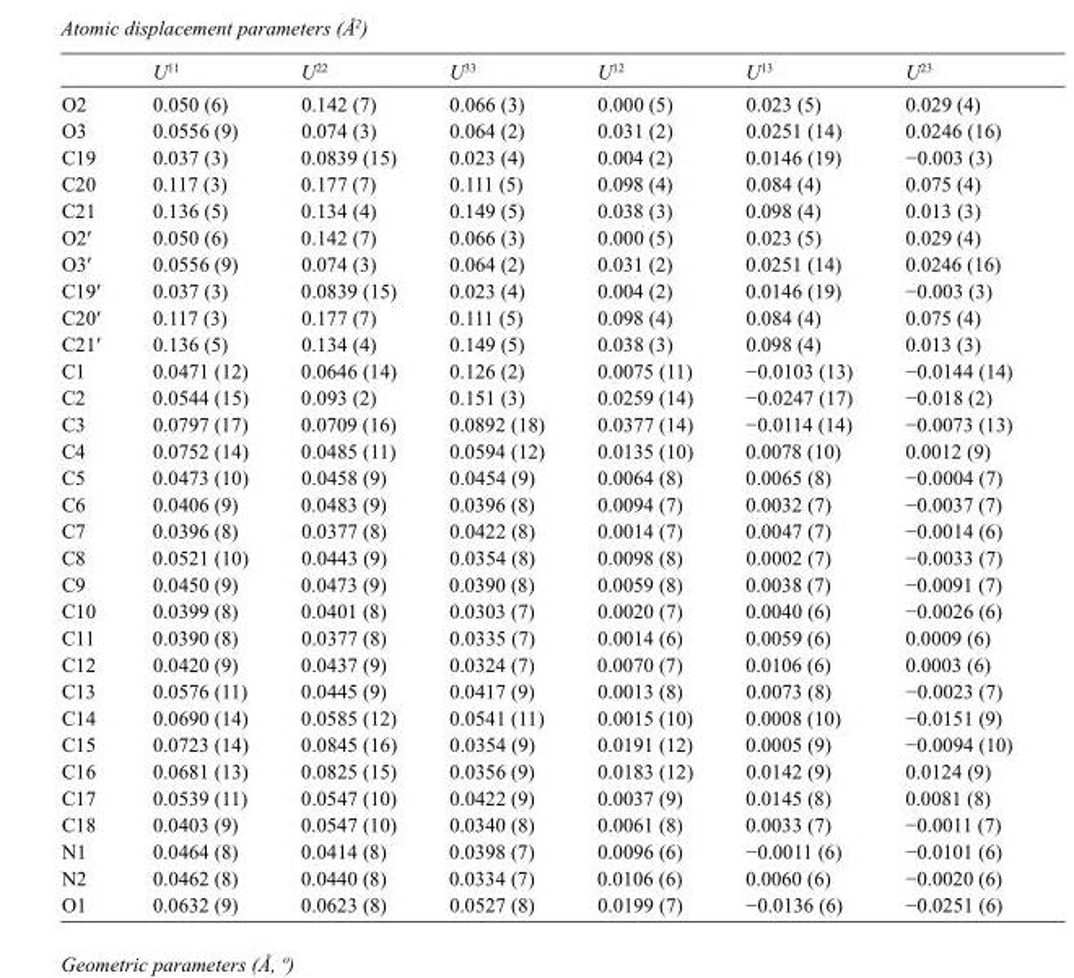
<table><thead><tr><td></td><td>U<sup>11</sup></td><td>U<sup>22</sup></td><td>U<sup>33</sup></td><td>U<sup>12</sup></td><td>U<sup>13</sup></td><td>U<sup>23</sup></td></tr></thead><tbody><tr><td>O2</td><td>0.050 (6)</td><td>0.142 (7)</td><td>0.066 (3)</td><td>0.000 (5)</td><td>0.023 (5)</td><td>0.029 (4)</td></tr><tr><td>O3</td><td>0.0556 (9)</td><td>0.074 (3)</td><td>0.064 (2)</td><td>0.031 (2)</td><td>0.0251 (14)</td><td>0.0246 (16)</td></tr><tr><td>C19</td><td>0.037 (3)</td><td>0.0839 (15)</td><td>0.023 (4)</td><td>0.004 (2)</td><td>0.0146 (19)</td><td>−0.003 (3)</td></tr><tr><td>C20</td><td>0.117 (3)</td><td>0.177 (7)</td><td>0.111 (5)</td><td>0.098 (4)</td><td>0.084 (4)</td><td>0.075 (4)</td></tr><tr><td>C21</td><td>0.136 (5)</td><td>0.134 (4)</td><td>0.149 (5)</td><td>0.038 (3)</td><td>0.098 (4)</td><td>0.013 (3)</td></tr><tr><td>O2′</td><td>0.050 (6)</td><td>0.142 (7)</td><td>0.066 (3)</td><td>0.000 (5)</td><td>0.023 (5)</td><td>0.029 (4)</td></tr><tr><td>O3′</td><td>0.0556 (9)</td><td>0.074 (3)</td><td>0.064 (2)</td><td>0.031 (2)</td><td>0.0251 (14)</td><td>0.0246 (16)</td></tr><tr><td>C19′</td><td>0.037 (3)</td><td>0.0839 (15)</td><td>0.023 (4)</td><td>0.004 (2)</td><td>0.0146 (19)</td><td>−0.003 (3)</td></tr><tr><td>C20′</td><td>0.117 (3)</td><td>0.177 (7)</td><td>0.111 (5)</td><td>0.098 (4)</td><td>0.084 (4)</td><td>0.075 (4)</td></tr><tr><td>C21′</td><td>0.136 (5)</td><td>0.134 (4)</td><td>0.149 (5)</td><td>0.038 (3)</td><td>0.098 (4)</td><td>0.013 (3)</td></tr><tr><td>C1</td><td>0.0471 (12)</td><td>0.0646 (14)</td><td>0.126 (2)</td><td>0.0075 (11)</td><td>−0.0103 (13)</td><td>−0.0144 (14)</td></tr><tr><td>C2</td><td>0.0544 (15)</td><td>0.093 (2)</td><td>0.151 (3)</td><td>0.0259 (14)</td><td>−0.0247 (17)</td><td>−0.018 (2)</td></tr><tr><td>C3</td><td>0.0797 (17)</td><td>0.0709 (16)</td><td>0.0892 (18)</td><td>0.0377 (14)</td><td>−0.0114 (14)</td><td>−0.0073 (13)</td></tr><tr><td>C4</td><td>0.0752 (14)</td><td>0.0485 (11)</td><td>0.0594 (12)</td><td>0.0135 (10)</td><td>0.0078 (10)</td><td>0.0012 (9)</td></tr><tr><td>C5</td><td>0.0473 (10)</td><td>0.0458 (9)</td><td>0.0454 (9)</td><td>0.0064 (8)</td><td>0.0065 (8)</td><td>−0.0004 (7)</td></tr><tr><td>C6</td><td>0.0406 (9)</td><td>0.0483 (9)</td><td>0.0396 (8)</td><td>0.0094 (7)</td><td>0.0032 (7)</td><td>−0.0037 (7)</td></tr><tr><td>C7</td><td>0.0396 (8)</td><td>0.0377 (8)</td><td>0.0422 (8)</td><td>0.0014 (7)</td><td>0.0047 (7)</td><td>−0.0014 (6)</td></tr><tr><td>C8</td><td>0.0521 (10)</td><td>0.0443 (9)</td><td>0.0354 (8)</td><td>0.0098 (8)</td><td>0.0002 (7)</td><td>−0.0033 (7)</td></tr><tr><td>C9</td><td>0.0450 (9)</td><td>0.0473 (9)</td><td>0.0390 (8)</td><td>0.0059 (8)</td><td>0.0038 (7)</td><td>−0.0091 (7)</td></tr><tr><td>C10</td><td>0.0399 (8)</td><td>0.0401 (8)</td><td>0.0303 (7)</td><td>0.0020 (7)</td><td>0.0040 (6)</td><td>−0.0026 (6)</td></tr><tr><td>C11</td><td>0.0390 (8)</td><td>0.0377 (8)</td><td>0.0335 (7)</td><td>0.0014 (6)</td><td>0.0059 (6)</td><td>0.0009 (6)</td></tr><tr><td>C12</td><td>0.0420 (9)</td><td>0.0437 (9)</td><td>0.0324 (7)</td><td>0.0070 (7)</td><td>0.0106 (6)</td><td>0.0003 (6)</td></tr><tr><td>C13</td><td>0.0576 (11)</td><td>0.0445 (9)</td><td>0.0417 (9)</td><td>0.0013 (8)</td><td>0.0073 (8)</td><td>−0.0023 (7)</td></tr><tr><td>C14</td><td>0.0690 (14)</td><td>0.0585 (12)</td><td>0.0541 (11)</td><td>0.0015 (10)</td><td>0.0008 (10)</td><td>−0.0151 (9)</td></tr><tr><td>C15</td><td>0.0723 (14)</td><td>0.0845 (16)</td><td>0.0354 (9)</td><td>0.0191 (12)</td><td>0.0005 (9)</td><td>−0.0094 (10)</td></tr><tr><td>C16</td><td>0.0681 (13)</td><td>0.0825 (15)</td><td>0.0356 (9)</td><td>0.0183 (12)</td><td>0.0142 (9)</td><td>0.0124 (9)</td></tr><tr><td>C17</td><td>0.0539 (11)</td><td>0.0547 (10)</td><td>0.0422 (9)</td><td>0.0037 (9)</td><td>0.0145 (8)</td><td>0.0081 (8)</td></tr><tr><td>C18</td><td>0.0403 (9)</td><td>0.0547 (10)</td><td>0.0340 (8)</td><td>0.0061 (8)</td><td>0.0033 (7)</td><td>−0.0011 (7)</td></tr><tr><td>N1</td><td>0.0464 (8)</td><td>0.0414 (8)</td><td>0.0398 (7)</td><td>0.0096 (6)</td><td>−0.0011 (6)</td><td>−0.0101 (6)</td></tr><tr><td>N2</td><td>0.0462 (8)</td><td>0.0440 (8)</td><td>0.0334 (7)</td><td>0.0106 (6)</td><td>0.0060 (6)</td><td>−0.0020 (6)</td></tr><tr><td>O1</td><td>0.0632 (9)</td><td>0.0623 (8)</td><td>0.0527 (8)</td><td>0.0199 (7)</td><td>−0.0136 (6)</td><td>−0.0251 (6)</td></tr></tbody></table>